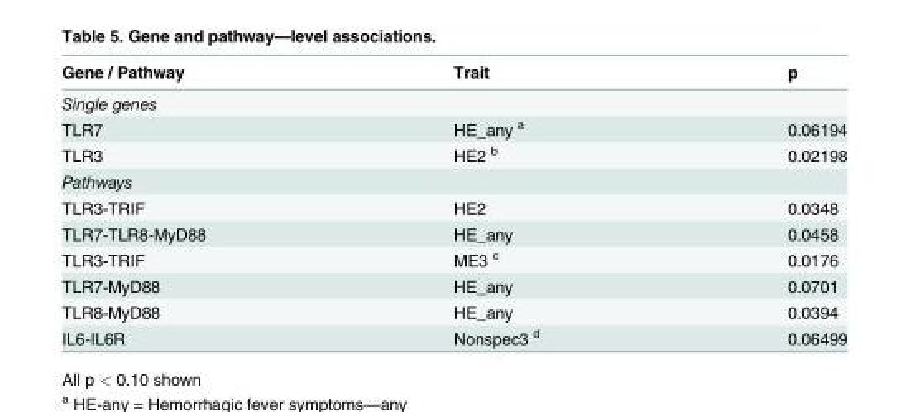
<table><thead><tr><td>Gene / Pathway</td><td>Trait</td><td>p</td></tr></thead><tbody><tr><td colspan="3">Single genes</td></tr><tr><td>TLR7</td><td>HE_any <sup>a</sup></td><td>0.06194</td></tr><tr><td>TLR3</td><td>HE2 <sup>b</sup></td><td>0.02198</td></tr><tr><td colspan="3">Pathways</td></tr><tr><td>TLR3-TRIF</td><td>HE2</td><td>0.0348</td></tr><tr><td>TLR7-TLR8-MyD88</td><td>HE_any</td><td>0.0458</td></tr><tr><td>TLR3-TRIF</td><td>ME3 <sup>c</sup></td><td>0.0176</td></tr><tr><td>TLR7-MyD88</td><td>HE_any</td><td>0.0701</td></tr><tr><td>TLR8-MyD88</td><td>HE_any</td><td>0.0394</td></tr><tr><td>IL6-IL6R</td><td>Nonspec3 <sup>d</sup></td><td>0.06499</td></tr></tbody></table>